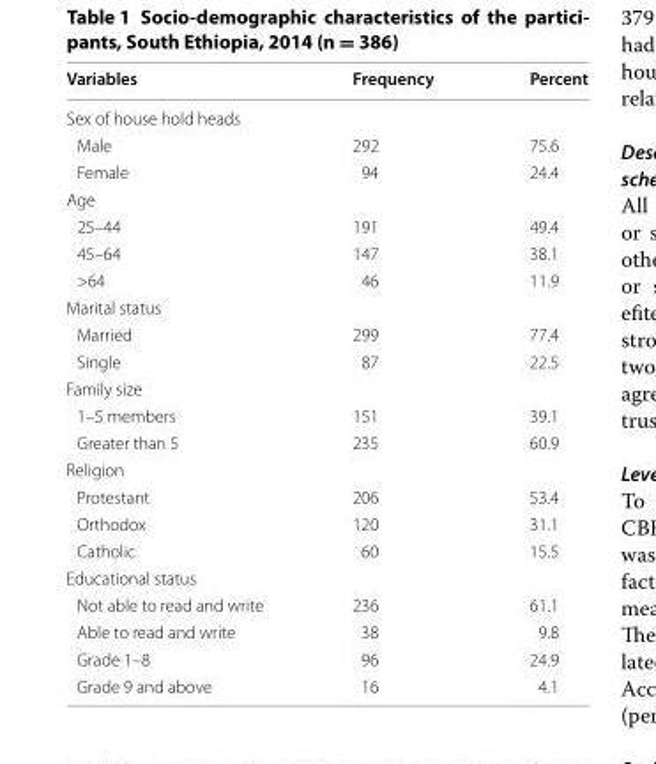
<table><thead><tr><td>Variables</td><td>Frequency</td><td>Percent</td></tr></thead><tbody><tr><td colspan="3">Sex of house hold heads</td></tr><tr><td>Male</td><td>292</td><td>75.6</td></tr><tr><td>Female</td><td>94</td><td>24.4</td></tr><tr><td colspan="3">Age</td></tr><tr><td>25–44</td><td>191</td><td>49.4</td></tr><tr><td>45–64</td><td>147</td><td>38.1</td></tr><tr><td>&gt;64</td><td>46</td><td>11.9</td></tr><tr><td colspan="3">Marital status</td></tr><tr><td>Married</td><td>299</td><td>77.4</td></tr><tr><td>Single</td><td>87</td><td>22.5</td></tr><tr><td colspan="3">Family size</td></tr><tr><td>1–5 members</td><td>151</td><td>39.1</td></tr><tr><td>Greater than 5</td><td>235</td><td>60.9</td></tr><tr><td colspan="3">Religion</td></tr><tr><td>Protestant</td><td>206</td><td>53.4</td></tr><tr><td>Orthodox</td><td>120</td><td>31.1</td></tr><tr><td>Catholic</td><td>60</td><td>15.5</td></tr><tr><td colspan="3">Educational status</td></tr><tr><td>Not able to read and write</td><td>236</td><td>61.1</td></tr><tr><td>Able to read and write</td><td>38</td><td>9.8</td></tr><tr><td>Grade 1–8</td><td>96</td><td>24.9</td></tr><tr><td>Grade 9 and above</td><td>16</td><td>4.1</td></tr></tbody></table>